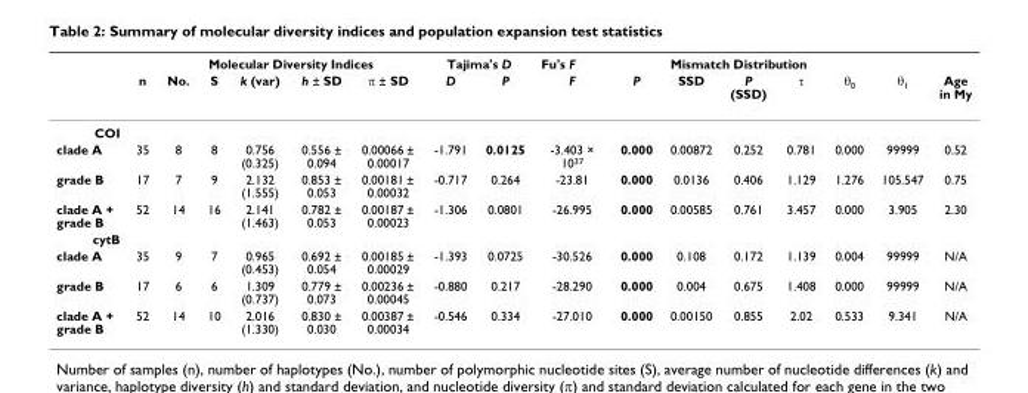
<table><thead><tr><td rowspan="2"></td><td rowspan="2">n</td><td colspan="5">Molecular Diversity Indices</td><td colspan="2">Tajima&#x27;s D</td><td colspan="2">Fu&#x27;s F</td><td colspan="5">Mismatch Distribution</td><td rowspan="2">Age in My</td></tr><tr><td>No.</td><td>S</td><td>k (var)</td><td>h ± SD</td><td>π ± SD</td><td>D</td><td>P</td><td>F</td><td>P</td><td>SSD</td><td>P (SSD)</td><td>τ</td><td>θ<sub>0</sub></td><td>θ<sub>1</sub></td></tr></thead><tbody><tr><td colspan="17">COI</td></tr><tr><td>clade A</td><td>35</td><td>8</td><td>8</td><td>0.756 (0.325)</td><td>0.556 ± 0.094</td><td>0.00066 ± 0.00017</td><td>-1.791</td><td>0.0125</td><td>-3.403 × 10<sup>37</sup></td><td>0.000</td><td>0.00872</td><td>0.252</td><td>0.781</td><td>0.000</td><td>99999</td><td>0.52</td></tr><tr><td>grade B</td><td>17</td><td>7</td><td>9</td><td>2.132 (1.555)</td><td>0.853 ± 0.053</td><td>0.00181 ± 0.00032</td><td>-0.717</td><td>0.264</td><td>-23.81</td><td>0.000</td><td>0.0136</td><td>0.406</td><td>1.129</td><td>1.276</td><td>105.547</td><td>0.75</td></tr><tr><td>clade A + grade B</td><td>52</td><td>14</td><td>16</td><td>2.141 (1.463)</td><td>0.782 ± 0.053</td><td>0.00187 ± 0.00023</td><td>-1.306</td><td>0.0801</td><td>-26.995</td><td>0.000</td><td>0.00585</td><td>0.761</td><td>3.457</td><td>0.000</td><td>3.905</td><td>2.30</td></tr><tr><td colspan="17">cytB</td></tr><tr><td>clade A</td><td>35</td><td>9</td><td>7</td><td>0.965 (0.453)</td><td>0.692 ± 0.054</td><td>0.00185 ± 0.00029</td><td>-1.393</td><td>0.0725</td><td>-30.526</td><td>0.000</td><td>0.108</td><td>0.172</td><td>1.139</td><td>0.004</td><td>99999</td><td>N/A</td></tr><tr><td>grade B</td><td>17</td><td>6</td><td>6</td><td>1.309 (0.737)</td><td>0.779 ± 0.073</td><td>0.00236 ± 0.00045</td><td>-0.880</td><td>0.217</td><td>-28.290</td><td>0.000</td><td>0.004</td><td>0.675</td><td>1.408</td><td>0.000</td><td>99999</td><td>N/A</td></tr><tr><td>clade A + grade B</td><td>52</td><td>14</td><td>10</td><td>2.016 (1.330)</td><td>0.830 ± 0.030</td><td>0.00387 ± 0.00034</td><td>-0.546</td><td>0.334</td><td>-27.010</td><td>0.000</td><td>0.00150</td><td>0.855</td><td>2.02</td><td>0.533</td><td>9.341</td><td>N/A</td></tr></tbody></table>